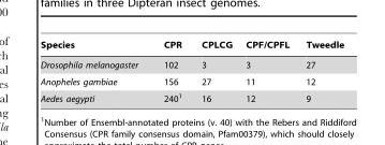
<table><thead><tr><td>Species</td><td>CPR</td><td>CPLCG</td><td>CPF/CPFL</td><td>Tweedle</td></tr></thead><tbody><tr><td>Drosophila melanogaster</td><td>102</td><td>3</td><td>3</td><td>27</td></tr><tr><td>Anopheles gambiae</td><td>156</td><td>27</td><td>11</td><td>12</td></tr><tr><td>Aedes aegypti</td><td>240<sup>1</sup></td><td>16</td><td>12</td><td>9</td></tr></tbody></table>